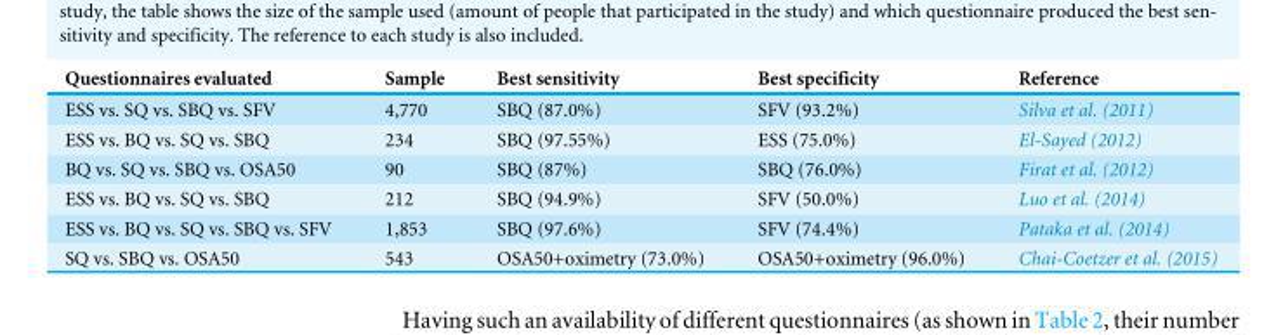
<table><thead><tr><td>Questionnaires evaluated</td><td>Sample</td><td>Best sensitivity</td><td>Best specificity</td><td>Reference</td></tr></thead><tbody><tr><td>ESS vs. SQ vs. SBQ vs. SFV</td><td>4,770</td><td>SBQ (87.0%)</td><td>SFV (93.2%)</td><td>Silva et al. (2011)</td></tr><tr><td>ESS vs. BQ vs. SQ vs. SBQ</td><td>234</td><td>SBQ (97.55%)</td><td>ESS (75.0%)</td><td>El-Sayed (2012)</td></tr><tr><td>BQ vs. SQ vs. SBQ vs. OSA50</td><td>90</td><td>SBQ (87%)</td><td>SBQ (76.0%)</td><td>Firat et al. (2012)</td></tr><tr><td>ESS vs. BQ vs. SQ vs. SBQ</td><td>212</td><td>SBQ (94.9%)</td><td>SFV (50.0%)</td><td>Luo et al. (2014)</td></tr><tr><td>ESS vs. BQ vs. SQ vs. SBQ vs. SFV</td><td>1,853</td><td>SBQ (97.6%)</td><td>SFV (74.4%)</td><td>Pataka et al. (2014)</td></tr><tr><td>SQ vs. SBQ vs. OSA50</td><td>543</td><td>OSA50+oximetry (73.0%)</td><td>OSA50+oximetry (96.0%)</td><td>Chai-Coetzer et al. (2015)</td></tr></tbody></table>